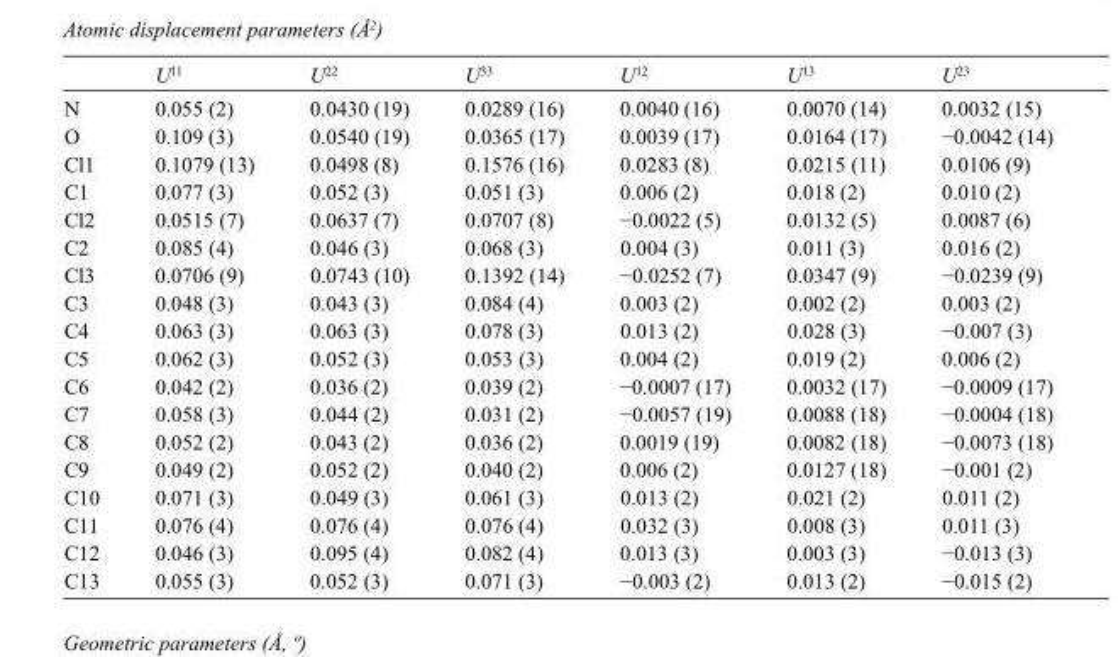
<table><thead><tr><td></td><td>U<sup>11</sup></td><td>U<sup>22</sup></td><td>U<sup>33</sup></td><td>U<sup>12</sup></td><td>U<sup>13</sup></td><td>U<sup>23</sup></td></tr></thead><tbody><tr><td>N</td><td>0.055 (2)</td><td>0.0430 (19)</td><td>0.0289 (16)</td><td>0.0040 (16)</td><td>0.0070 (14)</td><td>0.0032 (15)</td></tr><tr><td>O</td><td>0.109 (3)</td><td>0.0540 (19)</td><td>0.0365 (17)</td><td>0.0039 (17)</td><td>0.0164 (17)</td><td>−0.0042 (14)</td></tr><tr><td>Cl1</td><td>0.1079 (13)</td><td>0.0498 (8)</td><td>0.1576 (16)</td><td>0.0283 (8)</td><td>0.0215 (11)</td><td>0.0106 (9)</td></tr><tr><td>C1</td><td>0.077 (3)</td><td>0.052 (3)</td><td>0.051 (3)</td><td>0.006 (2)</td><td>0.018 (2)</td><td>0.010 (2)</td></tr><tr><td>Cl2</td><td>0.0515 (7)</td><td>0.0637 (7)</td><td>0.0707 (8)</td><td>−0.0022 (5)</td><td>0.0132 (5)</td><td>0.0087 (6)</td></tr><tr><td>C2</td><td>0.085 (4)</td><td>0.046 (3)</td><td>0.068 (3)</td><td>0.004 (3)</td><td>0.011 (3)</td><td>0.016 (2)</td></tr><tr><td>Cl3</td><td>0.0706 (9)</td><td>0.0743 (10)</td><td>0.1392 (14)</td><td>−0.0252 (7)</td><td>0.0347 (9)</td><td>−0.0239 (9)</td></tr><tr><td>C3</td><td>0.048 (3)</td><td>0.043 (3)</td><td>0.084 (4)</td><td>0.003 (2)</td><td>0.002 (2)</td><td>0.003 (2)</td></tr><tr><td>C4</td><td>0.063 (3)</td><td>0.063 (3)</td><td>0.078 (3)</td><td>0.013 (2)</td><td>0.028 (3)</td><td>−0.007 (3)</td></tr><tr><td>C5</td><td>0.062 (3)</td><td>0.052 (3)</td><td>0.053 (3)</td><td>0.004 (2)</td><td>0.019 (2)</td><td>0.006 (2)</td></tr><tr><td>C6</td><td>0.042 (2)</td><td>0.036 (2)</td><td>0.039 (2)</td><td>−0.0007 (17)</td><td>0.0032 (17)</td><td>−0.0009 (17)</td></tr><tr><td>C7</td><td>0.058 (3)</td><td>0.044 (2)</td><td>0.031 (2)</td><td>−0.0057 (19)</td><td>0.0088 (18)</td><td>−0.0004 (18)</td></tr><tr><td>C8</td><td>0.052 (2)</td><td>0.043 (2)</td><td>0.036 (2)</td><td>0.0019 (19)</td><td>0.0082 (18)</td><td>−0.0073 (18)</td></tr><tr><td>C9</td><td>0.049 (2)</td><td>0.052 (2)</td><td>0.040 (2)</td><td>0.006 (2)</td><td>0.0127 (18)</td><td>−0.001 (2)</td></tr><tr><td>C10</td><td>0.071 (3)</td><td>0.049 (3)</td><td>0.061 (3)</td><td>0.013 (2)</td><td>0.021 (2)</td><td>0.011 (2)</td></tr><tr><td>C11</td><td>0.076 (4)</td><td>0.076 (4)</td><td>0.076 (4)</td><td>0.032 (3)</td><td>0.008 (3)</td><td>0.011 (3)</td></tr><tr><td>C12</td><td>0.046 (3)</td><td>0.095 (4)</td><td>0.082 (4)</td><td>0.013 (3)</td><td>0.003 (3)</td><td>−0.013 (3)</td></tr><tr><td>C13</td><td>0.055 (3)</td><td>0.052 (3)</td><td>0.071 (3)</td><td>−0.003 (2)</td><td>0.013 (2)</td><td>−0.015 (2)</td></tr></tbody></table>